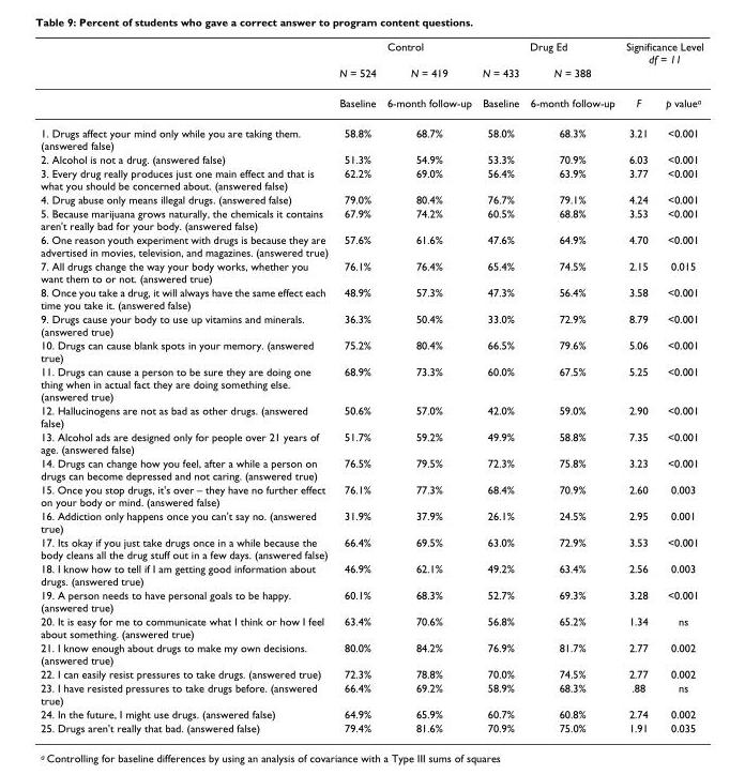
<table><thead><tr><td rowspan="2"></td><td colspan="2">Control</td><td colspan="2">Drug Ed</td><td colspan="2">Significance Level df = 11</td></tr><tr><td>N = 524</td><td>N = 419</td><td>N = 433</td><td>N = 388</td><td></td><td></td></tr></thead><tbody><tr><td></td><td>Baseline</td><td>6-month follow-up</td><td>Baseline</td><td>6-month follow-up</td><td>F</td><td>p value<sup>a</sup></td></tr><tr><td>1. Drugs affect your mind only while you are taking them. (answered false)</td><td>58.8%</td><td>68.7%</td><td>58.0%</td><td>68.3%</td><td>3.21</td><td>&lt;0.001</td></tr><tr><td>2. Alcohol is not a drug. (answered false)</td><td>51.3%</td><td>54.9%</td><td>53.3%</td><td>70.9%</td><td>6.03</td><td>&lt;0.001</td></tr><tr><td>3. Every drug really produces just one main effect and that is what you should be concerned about. (answered false)</td><td>62.2%</td><td>69.0%</td><td>56.4%</td><td>63.9%</td><td>3.77</td><td>&lt;0.001</td></tr><tr><td>4. Drug abuse only means illegal drugs. (answered false)</td><td>79.0%</td><td>80.4%</td><td>76.7%</td><td>79.1%</td><td>4.24</td><td>&lt;0.001</td></tr><tr><td>5. Because marijuana grows naturally, the chemicals it contains aren&#x27;t really bad for your body. (answered false)</td><td>67.9%</td><td>74.2%</td><td>60.5%</td><td>68.8%</td><td>3.53</td><td>&lt;0.001</td></tr><tr><td>6. One reason youth experiment with drugs is because they are advertised in movies, television, and magazines. (answered true)</td><td>57.6%</td><td>61.6%</td><td>47.6%</td><td>64.9%</td><td>4.70</td><td>&lt;0.001</td></tr><tr><td>7. All drugs change the way your body works, whether you want them to or not. (answered true)</td><td>76.1%</td><td>76.4%</td><td>65.4%</td><td>74.5%</td><td>2.15</td><td>0.015</td></tr><tr><td>8. Once you take a drug, it will always have the same effect each time you take it. (answered false)</td><td>48.9%</td><td>57.3%</td><td>47.3%</td><td>56.4%</td><td>3.58</td><td>&lt;0.001</td></tr><tr><td>9. Drugs cause your body to use up vitamins and minerals. (answered true)</td><td>36.3%</td><td>50.4%</td><td>33.0%</td><td>72.9%</td><td>8.79</td><td>&lt;0.001</td></tr><tr><td>10. Drugs can cause blank spots in your memory. (answered true)</td><td>75.2%</td><td>80.4%</td><td>66.5%</td><td>79.6%</td><td>5.06</td><td>&lt;0.001</td></tr><tr><td>11. Drugs can cause a person to be sure they are doing one thing when in actual fact they are doing something else. (answered true)</td><td>68.9%</td><td>73.3%</td><td>60.0%</td><td>67.5%</td><td>5.25</td><td>&lt;0.001</td></tr><tr><td>12. Hallucinogens are not as bad as other drugs. (answered false)</td><td>50.6%</td><td>57.0%</td><td>42.0%</td><td>59.0%</td><td>2.90</td><td>&lt;0.001</td></tr><tr><td>13. Alcohol ads are designed only for people over 21 years of age. (answered false)</td><td>51.7%</td><td>59.2%</td><td>49.9%</td><td>58.8%</td><td>7.35</td><td>&lt;0.001</td></tr><tr><td>14. Drugs can change how you feel, after a while a person on drugs can become depressed and not caring. (answered true)</td><td>76.5%</td><td>79.5%</td><td>72.3%</td><td>75.8%</td><td>3.23</td><td>&lt;0.001</td></tr><tr><td>15. Once you stop drugs, it&#x27;s over – they have no further effect on your body or mind. (answered false)</td><td>76.1%</td><td>77.3%</td><td>68.4%</td><td>70.9%</td><td>2.60</td><td>0.003</td></tr><tr><td>16. Addiction only happens once you can&#x27;t say no. (answered true)</td><td>31.9%</td><td>37.9%</td><td>26.1%</td><td>24.5%</td><td>2.95</td><td>0.001</td></tr><tr><td>17. Its okay if you just take drugs once in a while because the body cleans all the drug stuff out in a few days. (answered false)</td><td>66.4%</td><td>69.5%</td><td>63.0%</td><td>72.9%</td><td>3.53</td><td>&lt;0.001</td></tr><tr><td>18. I know how to tell if I am getting good information about drugs. (answered true)</td><td>46.9%</td><td>62.1%</td><td>49.2%</td><td>63.4%</td><td>2.56</td><td>0.003</td></tr><tr><td>19. A person needs to have personal goals to be happy. (answered true)</td><td>60.1%</td><td>68.3%</td><td>52.7%</td><td>69.3%</td><td>3.28</td><td>&lt;0.001</td></tr><tr><td>20. It is easy for me to communicate what I think or how I feel about something. (answered true)</td><td>63.4%</td><td>70.6%</td><td>56.8%</td><td>65.2%</td><td>1.34</td><td>ns</td></tr><tr><td>21. I know enough about drugs to make my own decisions. (answered true)</td><td>80.0%</td><td>84.2%</td><td>76.9%</td><td>81.7%</td><td>2.77</td><td>0.002</td></tr><tr><td>22. I can easily resist pressures to take drugs. (answered true)</td><td>72.3%</td><td>78.8%</td><td>70.0%</td><td>74.5%</td><td>2.77</td><td>0.002</td></tr><tr><td>23. I have resisted pressures to take drugs before. (answered true)</td><td>66.4%</td><td>69.2%</td><td>58.9%</td><td>68.3%</td><td>.88</td><td>ns</td></tr><tr><td>24. In the future, I might use drugs. (answered false)</td><td>64.9%</td><td>65.9%</td><td>60.7%</td><td>60.8%</td><td>2.74</td><td>0.002</td></tr><tr><td>25. Drugs aren&#x27;t really that bad. (answered false)</td><td>79.4%</td><td>81.6%</td><td>70.9%</td><td>75.0%</td><td>1.91</td><td>0.035</td></tr></tbody></table>